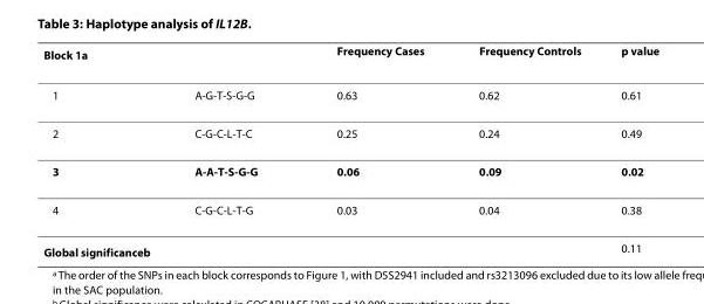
<table><thead><tr><td colspan="2">Block 1a</td><td rowspan="2">Frequency Cases 0.63</td><td rowspan="2">Frequency Controls 0.62</td><td rowspan="2">p value 0.61</td></tr><tr><td>1</td><td>A-G-T-S-G-G</td></tr></thead><tbody><tr><td>2</td><td>C-G-C-L-T-C</td><td>0.25</td><td>0.24</td><td>0.49</td></tr><tr><td>3</td><td>A-A-T-S-G-G</td><td>0.06</td><td>0.09</td><td>0.02</td></tr><tr><td>4</td><td>C-G-C-L-T-G</td><td>0.03</td><td>0.04</td><td>0.38</td></tr><tr><td colspan="3">Global significance<sup>b</sup></td><td></td><td>0.11</td></tr></tbody></table>